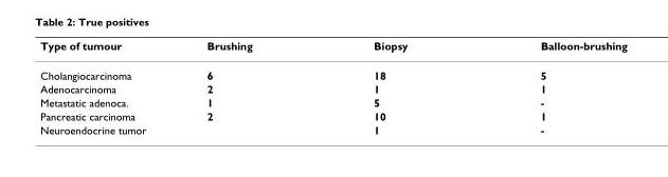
<table><thead><tr><td>Type of tumour</td><td>Brushing</td><td>Biopsy</td><td>Balloon-brushing</td></tr></thead><tbody><tr><td>Cholangiocarcinoma</td><td>6</td><td>18</td><td>5</td></tr><tr><td>Adenocarcinoma</td><td>2</td><td>1</td><td>1</td></tr><tr><td>Metastatic adenoca.</td><td>1</td><td>5</td><td>-</td></tr><tr><td>Pancreatic carcinoma</td><td>2</td><td>10</td><td>1</td></tr><tr><td>Neuroendocrine tumor</td><td></td><td>1</td><td>-</td></tr></tbody></table>